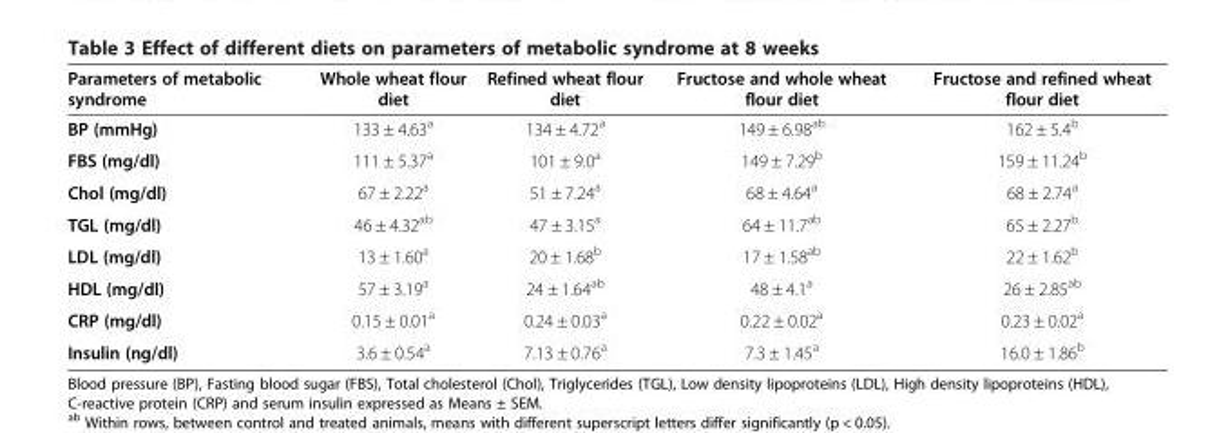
<table><thead><tr><td>Parameters of metabolic syndrome</td><td>Whole wheat flour diet</td><td>Refined wheat flour diet</td><td>Fructose and whole wheat flour diet</td><td>Fructose and refined wheat flour diet</td></tr></thead><tbody><tr><td>BP (mmHg)</td><td>133 ± 4.63<sup>a</sup></td><td>134 ± 4.72<sup>a</sup></td><td>149 ± 6.98<sup>ab</sup></td><td>162 ± 5.4<sup>b</sup></td></tr><tr><td>FBS (mg/dl)</td><td>111 ± 5.37<sup>a</sup></td><td>101 ± 9.0<sup>a</sup></td><td>149 ± 7.29<sup>b</sup></td><td>159 ± 11.24<sup>b</sup></td></tr><tr><td>Chol (mg/dl)</td><td>67 ± 2.22<sup>a</sup></td><td>51 ± 7.24<sup>a</sup></td><td>68 ± 4.64<sup>a</sup></td><td>68 ± 2.74<sup>a</sup></td></tr><tr><td>TGL (mg/dl)</td><td>46 ± 4.32<sup>ab</sup></td><td>47 ± 3.15<sup>a</sup></td><td>64 ± 11.7<sup>ab</sup></td><td>65 ± 2.27<sup>b</sup></td></tr><tr><td>LDL (mg/dl)</td><td>13 ± 1.60<sup>a</sup></td><td>20 ± 1.68<sup>b</sup></td><td>17 ± 1.58<sup>ab</sup></td><td>22 ± 1.62<sup>b</sup></td></tr><tr><td>HDL (mg/dl)</td><td>57 ± 3.19<sup>a</sup></td><td>24 ± 1.64<sup>ab</sup></td><td>48 ± 4.1<sup>a</sup></td><td>26 ± 2.85<sup>ab</sup></td></tr><tr><td>CRP (mg/dl)</td><td>0.15 ± 0.01<sup>a</sup></td><td>0.24 ± 0.03<sup>a</sup></td><td>0.22 ± 0.02<sup>a</sup></td><td>0.23 ± 0.02<sup>a</sup></td></tr><tr><td>Insulin (ng/dl)</td><td>3.6 ± 0.54<sup>a</sup></td><td>7.13 ± 0.76<sup>a</sup></td><td>7.3 ± 1.45<sup>a</sup></td><td>16.0 ± 1.86<sup>b</sup></td></tr></tbody></table>